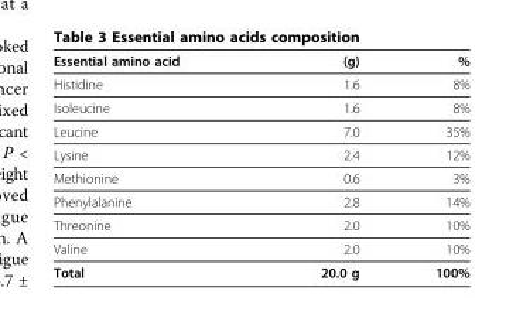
<table><thead><tr><td>Essential amino acid</td><td>(g)</td><td>%</td></tr></thead><tbody><tr><td>Histidine</td><td>1.6</td><td>8%</td></tr><tr><td>Isoleucine</td><td>1.6</td><td>8%</td></tr><tr><td>Leucine</td><td>7.0</td><td>35%</td></tr><tr><td>Lysine</td><td>2.4</td><td>12%</td></tr><tr><td>Methionine</td><td>0.6</td><td>3%</td></tr><tr><td>Phenylalanine</td><td>2.8</td><td>14%</td></tr><tr><td>Threonine</td><td>2.0</td><td>10%</td></tr><tr><td>Valine</td><td>2.0</td><td>10%</td></tr><tr><td>Total</td><td>20.0 g</td><td>100%</td></tr></tbody></table>